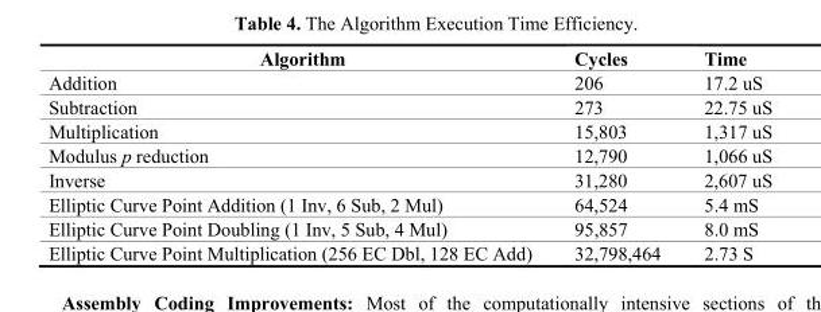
<table><thead><tr><td>Algorithm</td><td>Cycles</td><td>Time</td></tr></thead><tbody><tr><td>Addition</td><td>206</td><td>17.2 uS</td></tr><tr><td>Subtraction</td><td>273</td><td>22.75 uS</td></tr><tr><td>Multiplication</td><td>15,803</td><td>1,317 uS</td></tr><tr><td>Modulus p reduction</td><td>12,790</td><td>1,066 uS</td></tr><tr><td>Inverse</td><td>31,280</td><td>2,607 uS</td></tr><tr><td>Elliptic Curve Point Addition (1 Inv, 6 Sub, 2 Mul)</td><td>64,524</td><td>5.4 mS</td></tr><tr><td>Elliptic Curve Point Doubling (1 Inv, 5 Sub, 4 Mul)</td><td>95,857</td><td>8.0 mS</td></tr><tr><td>Elliptic Curve Point Multiplication (256 EC Dbl, 128 EC Add)</td><td>32,798,464</td><td>2.73 S</td></tr></tbody></table>